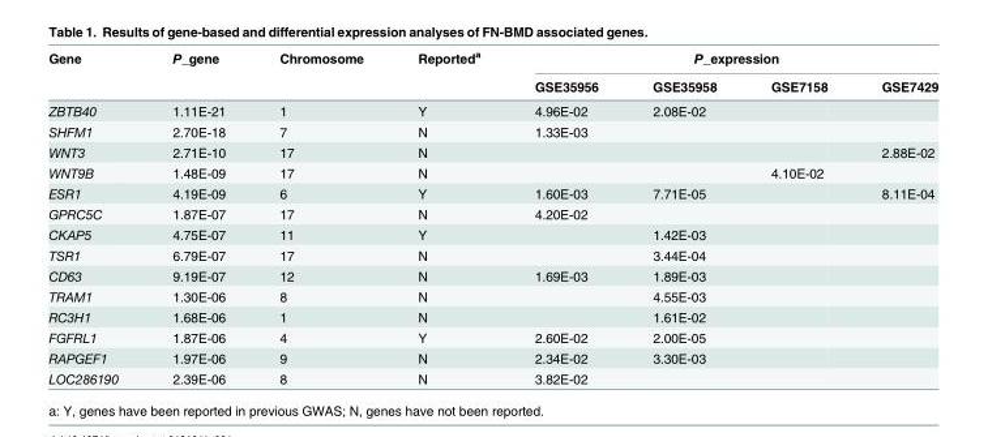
<table><thead><tr><td rowspan="2">Gene</td><td rowspan="2">P_gene</td><td rowspan="2">Chromosome</td><td rowspan="2">Reported<sup>a</sup></td><td colspan="4">P_expression</td></tr><tr><td>GSE35956</td><td>GSE35958</td><td>GSE7158</td><td>GSE7429</td></tr></thead><tbody><tr><td>ZBTB40</td><td>1.11E-21</td><td>1</td><td>Y</td><td>4.96E-02</td><td>2.08E-02</td><td></td><td></td></tr><tr><td>SHFM1</td><td>2.70E-18</td><td>7</td><td>N</td><td>1.33E-03</td><td></td><td></td><td></td></tr><tr><td>WNT3</td><td>2.71E-10</td><td>17</td><td>N</td><td></td><td></td><td></td><td>2.88E-02</td></tr><tr><td>WNT9B</td><td>1.48E-09</td><td>17</td><td>N</td><td></td><td></td><td>4.10E-02</td><td></td></tr><tr><td>ESR1</td><td>4.19E-09</td><td>6</td><td>Y</td><td>1.60E-03</td><td>7.71E-05</td><td></td><td>8.11E-04</td></tr><tr><td>GPRC5C</td><td>1.87E-07</td><td>17</td><td>N</td><td>4.20E-02</td><td></td><td></td><td></td></tr><tr><td>CKAP5</td><td>4.75E-07</td><td>11</td><td>Y</td><td></td><td>1.42E-03</td><td></td><td></td></tr><tr><td>TSR1</td><td>6.79E-07</td><td>17</td><td>N</td><td></td><td>3.44E-04</td><td></td><td></td></tr><tr><td>CD63</td><td>9.19E-07</td><td>12</td><td>N</td><td>1.69E-03</td><td>1.89E-03</td><td></td><td></td></tr><tr><td>TRAM1</td><td>1.30E-06</td><td>8</td><td>N</td><td></td><td>4.55E-03</td><td></td><td></td></tr><tr><td>RC3H1</td><td>1.68E-06</td><td>1</td><td>N</td><td></td><td>1.61E-02</td><td></td><td></td></tr><tr><td>FGFRL1</td><td>1.87E-06</td><td>4</td><td>Y</td><td>2.60E-02</td><td>2.00E-05</td><td></td><td></td></tr><tr><td>RAPGEF1</td><td>1.97E-06</td><td>9</td><td>N</td><td>2.34E-02</td><td>3.30E-03</td><td></td><td></td></tr><tr><td>LOC286190</td><td>2.39E-06</td><td>8</td><td>N</td><td>3.82E-02</td><td></td><td></td><td></td></tr></tbody></table>